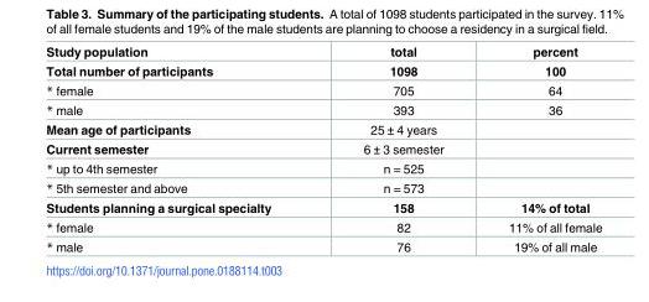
<table><thead><tr><td>Study population</td><td>total</td><td>percent</td></tr></thead><tbody><tr><td>Total number of participants</td><td>1098</td><td>100</td></tr><tr><td>* female</td><td>705</td><td>64</td></tr><tr><td>* male</td><td>393</td><td>36</td></tr><tr><td>Mean age of participants</td><td>25 ± 4 years</td><td></td></tr><tr><td>Current semester</td><td>6 ± 3 semester</td><td></td></tr><tr><td>* up to 4th semester</td><td>n = 525</td><td></td></tr><tr><td>* 5th semester and above</td><td>n = 573</td><td></td></tr><tr><td>Students planning a surgical specialty</td><td>158</td><td>14% of total</td></tr><tr><td>* female</td><td>82</td><td>11% of all female</td></tr><tr><td>* male</td><td>76</td><td>19% of all male</td></tr></tbody></table>